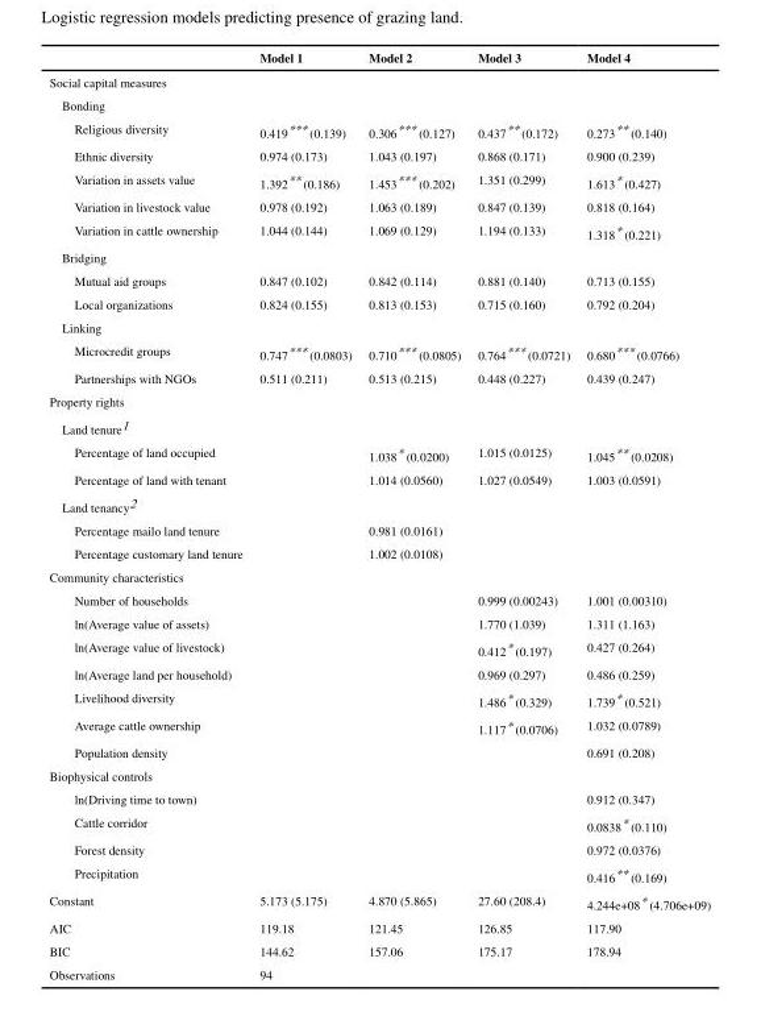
<table><thead><tr><td></td><td>Model 1</td><td>Model 2</td><td>Model 3</td><td>Model 4</td></tr></thead><tbody><tr><td colspan="5">Social capital measures</td></tr><tr><td colspan="5">Bonding</td></tr><tr><td>Religious diversity</td><td>0.419*** (0.139)</td><td>0.306*** (0.127)</td><td>0.437** (0.172)</td><td>0.273** (0.140)</td></tr><tr><td>Ethnic diversity</td><td>0.974 (0.173)</td><td>1.043 (0.197)</td><td>0.868 (0.171)</td><td>0.900 (0.239)</td></tr><tr><td>Variation in assets value</td><td>1.392** (0.186)</td><td>1.453*** (0.202)</td><td>1.351 (0.299)</td><td>1.613* (0.427)</td></tr><tr><td>Variation in livestock value</td><td>0.978 (0.192)</td><td>1.063 (0.189)</td><td>0.847 (0.139)</td><td>0.818 (0.164)</td></tr><tr><td>Variation in cattle ownership</td><td>1.044 (0.144)</td><td>1.069 (0.129)</td><td>1.194 (0.133)</td><td>1.318* (0.221)</td></tr><tr><td colspan="5">Bridging</td></tr><tr><td>Mutual aid groups</td><td>0.847 (0.102)</td><td>0.842 (0.114)</td><td>0.881 (0.140)</td><td>0.713 (0.155)</td></tr><tr><td>Local organizations</td><td>0.824 (0.155)</td><td>0.813 (0.153)</td><td>0.715 (0.160)</td><td>0.792 (0.204)</td></tr><tr><td colspan="5">Linking</td></tr><tr><td>Microcredit groups</td><td>0.747*** (0.0803)</td><td>0.710*** (0.0805)</td><td>0.764*** (0.0721)</td><td>0.680*** (0.0766)</td></tr><tr><td>Partnerships with NGOs</td><td>0.511 (0.211)</td><td>0.513 (0.215)</td><td>0.448 (0.227)</td><td>0.439 (0.247)</td></tr><tr><td colspan="5">Property rights</td></tr><tr><td colspan="5">Land tenure<sup>1</sup></td></tr><tr><td>Percentage of land occupied</td><td></td><td>1.038* (0.0200)</td><td>1.015 (0.0125)</td><td>1.045** (0.0208)</td></tr><tr><td>Percentage of land with tenant</td><td></td><td>1.014 (0.0560)</td><td>1.027 (0.0549)</td><td>1.003 (0.0591)</td></tr><tr><td colspan="5">Land tenancy<sup>2</sup></td></tr><tr><td>Percentage mailo land tenure</td><td></td><td>0.981 (0.0161)</td><td></td><td></td></tr><tr><td>Percentage customary land tenure</td><td></td><td>1.002 (0.0108)</td><td></td><td></td></tr><tr><td colspan="5">Community characteristics</td></tr><tr><td>Number of households</td><td></td><td></td><td>0.999 (0.00243)</td><td>1.001 (0.00310)</td></tr><tr><td>ln(Average value of assets)</td><td></td><td></td><td>1.770 (1.039)</td><td>1.311 (1.163)</td></tr><tr><td>ln(Average value of livestock)</td><td></td><td></td><td>0.412* (0.197)</td><td>0.427 (0.264)</td></tr><tr><td>ln(Average land per household)</td><td></td><td></td><td>0.969 (0.297)</td><td>0.486 (0.259)</td></tr><tr><td>Livelihood diversity</td><td></td><td></td><td>1.486* (0.329)</td><td>1.739* (0.521)</td></tr><tr><td>Average cattle ownership</td><td></td><td></td><td>1.117* (0.0706)</td><td>1.032 (0.0789)</td></tr><tr><td>Population density</td><td></td><td></td><td></td><td>0.691 (0.208)</td></tr><tr><td colspan="5">Biophysical controls</td></tr><tr><td>ln(Driving time to town)</td><td></td><td></td><td></td><td>0.912 (0.347)</td></tr><tr><td>Cattle corridor</td><td></td><td></td><td></td><td>0.0838* (0.110)</td></tr><tr><td>Forest density</td><td></td><td></td><td></td><td>0.972 (0.0376)</td></tr><tr><td>Precipitation</td><td></td><td></td><td></td><td>0.416** (0.169)</td></tr><tr><td>Constant</td><td>5.173 (5.175)</td><td>4.870 (5.865)</td><td>27.60 (208.4)</td><td>4.244e+08* (4.706e+09)</td></tr><tr><td>AIC</td><td>119.18</td><td>121.45</td><td>126.85</td><td>117.90</td></tr><tr><td>BIC</td><td>144.62</td><td>157.06</td><td>175.17</td><td>178.94</td></tr><tr><td>Observations</td><td>94</td><td></td><td></td><td></td></tr></tbody></table>